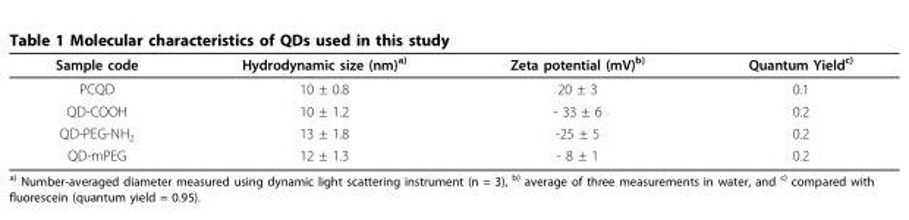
<table><thead><tr><td>Sample code</td><td>Hydrodynamic size (nm)<sup>a)</sup></td><td>Zeta potential (mV)<sup>b)</sup></td><td>Quantum Yield<sup>c)</sup></td></tr></thead><tbody><tr><td>PCQD</td><td>10 ± 0.8</td><td>20 ± 3</td><td>0.1</td></tr><tr><td>QD-COOH</td><td>10 ± 1.2</td><td>- 33 ± 6</td><td>0.2</td></tr><tr><td>QD-PEG-NH<sub>2</sub></td><td>13 ± 1.8</td><td>-25 ± 5</td><td>0.2</td></tr><tr><td>QD-mPEG</td><td>12 ± 1.3</td><td>- 8 ± 1</td><td>0.2</td></tr></tbody></table>